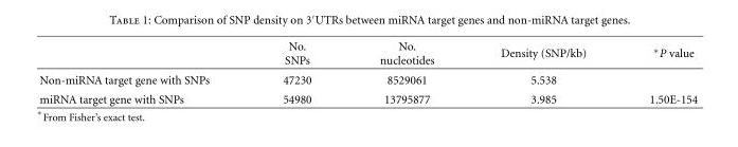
<table><thead><tr><td></td><td>No. SNPs</td><td>No. nucleotides</td><td>Density (SNP/kb)</td><td>∗P value</td></tr></thead><tbody><tr><td>Non-miRNA target gene with SNPs</td><td>47230</td><td>8529061</td><td>5.538</td><td></td></tr><tr><td>miRNA target gene with SNPs</td><td>54980</td><td>13795877</td><td>3.985</td><td>1.50E-154</td></tr></tbody></table>